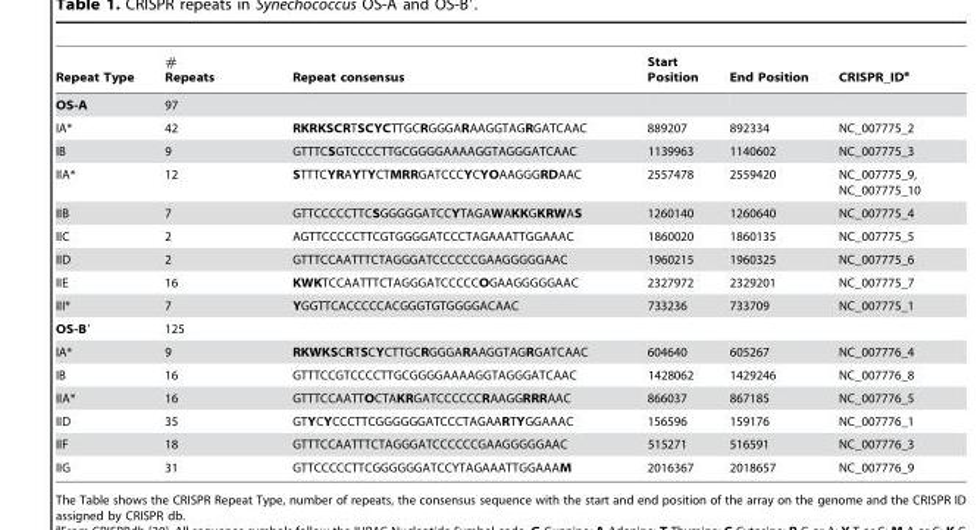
<table><thead><tr><td>Repeat Type</td><td># Repeats</td><td>Repeat consensus</td><td>Start Position</td><td>End Position</td><td>CRISPR_ID<sup>a</sup></td></tr></thead><tbody><tr><td>OS-A</td><td>97</td><td></td><td></td><td></td><td></td></tr><tr><td>IA*</td><td>42</td><td>RKRKSCRTSCYCTTGCRGGGARAAGGTAGRGATCAAC</td><td>889207</td><td>892334</td><td>NC_007775_2</td></tr><tr><td>IB</td><td>9</td><td>GTTTCSGTCCCCTTGCGGGGAAAAGGTAGGGATCAAC</td><td>1139963</td><td>1140602</td><td>NC_007775_3</td></tr><tr><td>IIA*</td><td>12</td><td>STTTCYRAYTYCTMRRGATCCCYCYOAAGGGRDAAC</td><td>2557478</td><td>2559420</td><td>NC_007775_9, NC_007775_10</td></tr><tr><td>IIB</td><td>7</td><td>GTTCCCCCTTCSGGGGGATCCYTAGAWAKKGKRWAS</td><td>1260140</td><td>1260640</td><td>NC_007775_4</td></tr><tr><td>IIC</td><td>2</td><td>AGTTCCCCCTTCGTGGGGATCCCTAGAAATTGGAAAC</td><td>1860020</td><td>1860135</td><td>NC_007775_5</td></tr><tr><td>IID</td><td>2</td><td>GTTTCCAATTTCTAGGGATCCCCCCGAAGGGGGAAC</td><td>1960215</td><td>1960325</td><td>NC_007775_6</td></tr><tr><td>IIE</td><td>16</td><td>KWKTCCAATTTCTAGGGATCCCCCOGAAGGGGGAAC</td><td>2327972</td><td>2329201</td><td>NC_007775_7</td></tr><tr><td>III*</td><td>7</td><td>YGGTTCACCCCCACGGGTGTGGGGACAAC</td><td>733236</td><td>733709</td><td>NC_007775_1</td></tr><tr><td>OS-B′</td><td>125</td><td></td><td></td><td></td><td></td></tr><tr><td>IA*</td><td>9</td><td>RKWKSCRTSCYCTTGCRGGGARAAGGTAGRGATCAAC</td><td>604640</td><td>605267</td><td>NC_007776_4</td></tr><tr><td>IB</td><td>16</td><td>GTTTCCGTCCCCTTGCGGGGAAAAGGTAGGGATCAAC</td><td>1428062</td><td>1429246</td><td>NC_007776_8</td></tr><tr><td>IIA*</td><td>16</td><td>GTTTCCAATTOCTAKRGATCCCCCCRAAGGRRRAAC</td><td>866037</td><td>867185</td><td>NC_007776_5</td></tr><tr><td>IID</td><td>35</td><td>GTYCYCCCTTCGGGGGGATCCCTAGAARTYGGAAAC</td><td>156596</td><td>159176</td><td>NC_007776_1</td></tr><tr><td>IIF</td><td>18</td><td>GTTTCCAATTTCTAGGGATCCCCCCGAAGGGGGAAC</td><td>515271</td><td>516591</td><td>NC_007776_3</td></tr><tr><td>IIG</td><td>31</td><td>GTTCCCCCTTCGGGGGGATCCYTAGAAATTGGAAAM</td><td>2016367</td><td>2018657</td><td>NC_007776_9</td></tr></tbody></table>